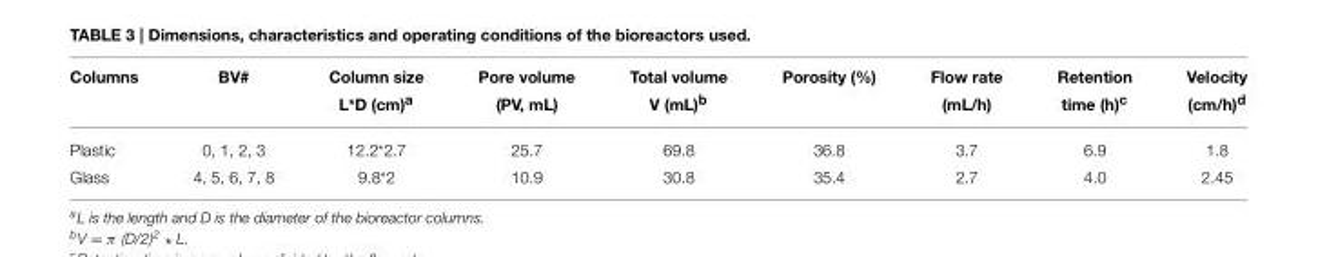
<table><thead><tr><td>Columns</td><td>BV#</td><td>Column size L*D (cm)<sup>a</sup></td><td>Pore volume (PV, mL)</td><td>Total volume V (mL)<sup>b</sup></td><td>Porosity (%)</td><td>Flow rate (mL/h)</td><td>Retention time (h)<sup>c</sup></td><td>Velocity (cm/h)<sup>d</sup></td></tr></thead><tbody><tr><td>Plastic</td><td>0, 1, 2, 3</td><td>12.2*2.7</td><td>25.7</td><td>69.8</td><td>36.8</td><td>3.7</td><td>6.9</td><td>1.8</td></tr><tr><td>Glass</td><td>4, 5, 6, 7, 8</td><td>9.8*2</td><td>10.9</td><td>30.8</td><td>35.4</td><td>2.7</td><td>4.0</td><td>2.45</td></tr></tbody></table>